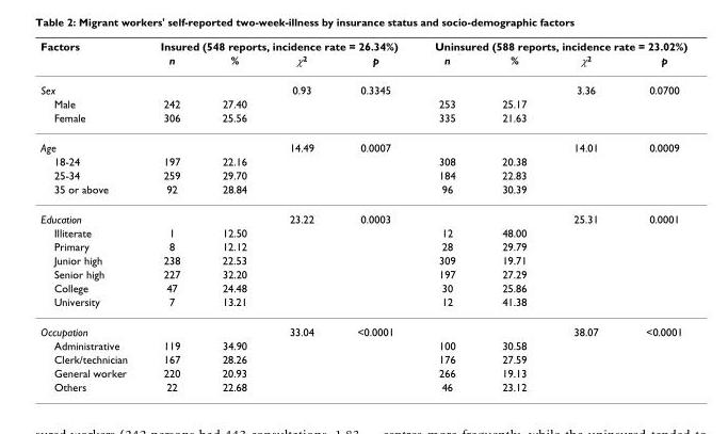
<table><thead><tr><td rowspan="2">Factors</td><td colspan="4">Insured (548 reports, incidence rate = 26.34%)</td><td colspan="4">Uninsured (588 reports, incidence rate = 23.02%)</td></tr><tr><td>n</td><td>%</td><td>χ<sup>2</sup></td><td>p</td><td>n</td><td>%</td><td>χ<sup>2</sup></td><td>p</td></tr></thead><tbody><tr><td>Sex</td><td></td><td></td><td>0.93</td><td>0.3345</td><td></td><td></td><td>3.36</td><td>0.0700</td></tr><tr><td>Male</td><td>242</td><td>27.40</td><td></td><td></td><td>253</td><td>25.17</td><td></td><td></td></tr><tr><td>Female</td><td>306</td><td>25.56</td><td></td><td></td><td>335</td><td>21.63</td><td></td><td></td></tr><tr><td>Age</td><td></td><td></td><td>14.49</td><td>0.0007</td><td></td><td></td><td>14.01</td><td>0.0009</td></tr><tr><td>18-24</td><td>197</td><td>22.16</td><td></td><td></td><td>308</td><td>20.38</td><td></td><td></td></tr><tr><td>25-34</td><td>259</td><td>29.70</td><td></td><td></td><td>184</td><td>22.83</td><td></td><td></td></tr><tr><td>35 or above</td><td>92</td><td>28.84</td><td></td><td></td><td>96</td><td>30.39</td><td></td><td></td></tr><tr><td>Education</td><td></td><td></td><td>23.22</td><td>0.0003</td><td></td><td></td><td>25.31</td><td>0.0001</td></tr><tr><td>Illiterate</td><td>1</td><td>12.50</td><td></td><td></td><td>12</td><td>48.00</td><td></td><td></td></tr><tr><td>Primary</td><td>8</td><td>12.12</td><td></td><td></td><td>28</td><td>29.79</td><td></td><td></td></tr><tr><td>Junior high</td><td>238</td><td>22.53</td><td></td><td></td><td>309</td><td>19.71</td><td></td><td></td></tr><tr><td>Senior high</td><td>227</td><td>32.20</td><td></td><td></td><td>197</td><td>27.29</td><td></td><td></td></tr><tr><td>College</td><td>47</td><td>24.48</td><td></td><td></td><td>30</td><td>25.86</td><td></td><td></td></tr><tr><td>University</td><td>7</td><td>13.21</td><td></td><td></td><td>12</td><td>41.38</td><td></td><td></td></tr><tr><td>Occupation</td><td></td><td></td><td>33.04</td><td>&lt;0.0001</td><td></td><td></td><td>38.07</td><td>&lt;0.0001</td></tr><tr><td>Administrative</td><td>119</td><td>34.90</td><td></td><td></td><td>100</td><td>30.58</td><td></td><td></td></tr><tr><td>Clerk/technician</td><td>167</td><td>28.26</td><td></td><td></td><td>176</td><td>27.59</td><td></td><td></td></tr><tr><td>General worker</td><td>220</td><td>20.93</td><td></td><td></td><td>266</td><td>19.13</td><td></td><td></td></tr><tr><td>Others</td><td>22</td><td>22.68</td><td></td><td></td><td>46</td><td>23.12</td><td></td><td></td></tr></tbody></table>